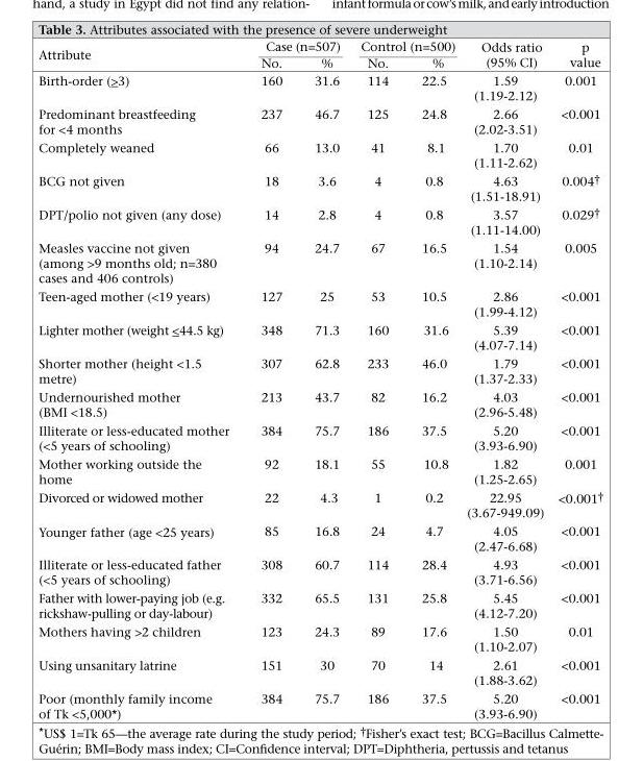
<table><thead><tr><td rowspan="2">Attribute</td><td colspan="2">Case (n=507)</td><td colspan="2">Control (n=500)</td><td rowspan="2">Odds ratio (95% CI)</td><td rowspan="2">p value</td></tr><tr><td>No.</td><td>%</td><td>No.</td><td>%</td></tr></thead><tbody><tr><td>Birth-order (&gt;3)</td><td>160</td><td>31.6</td><td>114</td><td>22.5</td><td>1.59 (1.19-2.12)</td><td>0.001</td></tr><tr><td>Predominant breastfeeding for &lt;4 months</td><td>237</td><td>46.7</td><td>125</td><td>24.8</td><td>2.66 (2.02-3.51)</td><td>&lt;0.001</td></tr><tr><td>Completely weaned</td><td>66</td><td>13.0</td><td>41</td><td>8.1</td><td>1.70 (1.11-2.62)</td><td>0.01</td></tr><tr><td>BCG not given</td><td>18</td><td>3.6</td><td>4</td><td>0.8</td><td>4.63 (1.51-18.91)</td><td>0.004†</td></tr><tr><td>DPT/polio not given (any dose)</td><td>14</td><td>2.8</td><td>4</td><td>0.8</td><td>3.57 (1.11-14.00)</td><td>0.029†</td></tr><tr><td>Measles vaccine not given (among &gt;9 months old; n=380 cases and 406 controls)</td><td>94</td><td>24.7</td><td>67</td><td>16.5</td><td>1.54 (1.10-2.14)</td><td>0.005</td></tr><tr><td>Teen-aged mother (&lt;19 years)</td><td>127</td><td>25</td><td>53</td><td>10.5</td><td>2.86 (1.99-4.12)</td><td>&lt;0.001</td></tr><tr><td>Lighter mother (weight &lt;44.5 kg)</td><td>348</td><td>71.3</td><td>160</td><td>31.6</td><td>5.39 (4.07-7.14)</td><td>&lt;0.001</td></tr><tr><td>Shorter mother (height &lt;1.5 metre)</td><td>307</td><td>62.8</td><td>233</td><td>46.0</td><td>1.79 (1.37-2.33)</td><td>&lt;0.001</td></tr><tr><td>Undernourished mother (BMI &lt;18.5)</td><td>213</td><td>43.7</td><td>82</td><td>16.2</td><td>4.03 (2.96-5.48)</td><td>&lt;0.001</td></tr><tr><td>Illiterate or less-educated mother (&lt;5 years of schooling)</td><td>384</td><td>75.7</td><td>186</td><td>37.5</td><td>5.20 (3.93-6.90)</td><td>&lt;0.001</td></tr><tr><td>Mother working outside the home</td><td>92</td><td>18.1</td><td>55</td><td>10.8</td><td>1.82 (1.25-2.65)</td><td>0.001</td></tr><tr><td>Divorced or widowed mother</td><td>22</td><td>4.3</td><td>1</td><td>0.2</td><td>22.95 (3.67-949.09)</td><td>&lt;0.001†</td></tr><tr><td>Younger father (age &lt;25 years)</td><td>85</td><td>16.8</td><td>24</td><td>4.7</td><td>4.05 (2.47-6.68)</td><td>&lt;0.001</td></tr><tr><td>Illiterate or less-educated father (&lt;5 years of schooling)</td><td>308</td><td>60.7</td><td>114</td><td>28.4</td><td>4.93 (3.71-6.56)</td><td>&lt;0.001</td></tr><tr><td>Father with lower-paying job (e.g. rickshaw-pulling or day-labour)</td><td>332</td><td>65.5</td><td>131</td><td>25.8</td><td>5.45 (4.12-7.20)</td><td>&lt;0.001</td></tr><tr><td>Mothers having &gt;2 children</td><td>123</td><td>24.3</td><td>89</td><td>17.6</td><td>1.50 (1.10-2.07)</td><td>0.01</td></tr><tr><td>Using unsanitary latrine</td><td>151</td><td>30</td><td>70</td><td>14</td><td>2.61 (1.88-3.62)</td><td>&lt;0.001</td></tr><tr><td>Poor (monthly family income of Tk &lt;5,000*)</td><td>384</td><td>75.7</td><td>186</td><td>37.5</td><td>5.20 (3.93-6.90)</td><td>&lt;0.001</td></tr></tbody></table>